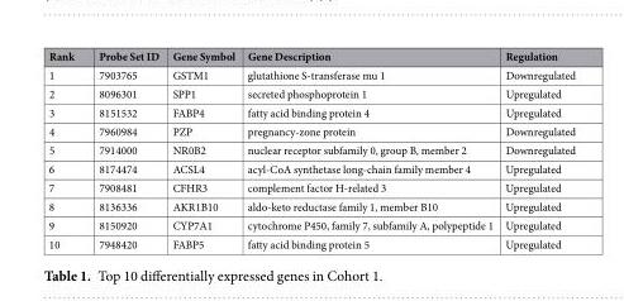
<table><thead><tr><td>Rank</td><td>Probe Set ID</td><td>Gene Symbol</td><td>Gene Description</td><td>Regulation</td></tr></thead><tbody><tr><td>1</td><td>7903765</td><td>GSTM1</td><td>glutathione S-transferase mu 1</td><td>Downregulated</td></tr><tr><td>2</td><td>8096301</td><td>SPP1</td><td>secreted phosphoprotein 1</td><td>Upregulated</td></tr><tr><td>3</td><td>8151532</td><td>FABP4</td><td>fatty acid binding protein 4</td><td>Upregulated</td></tr><tr><td>4</td><td>7960984</td><td>PZP</td><td>pregnancy-zone protein</td><td>Downregulated</td></tr><tr><td>5</td><td>7914000</td><td>NR0B2</td><td>nuclear receptor subfamily 0, group B, member 2</td><td>Downregulated</td></tr><tr><td>6</td><td>8174474</td><td>ACSL4</td><td>acyl-CoA synthetase long-chain family member 4</td><td>Upregulated</td></tr><tr><td>7</td><td>7908481</td><td>CFHR3</td><td>complement factor H-related 3</td><td>Upregulated</td></tr><tr><td>8</td><td>8136336</td><td>AKR1B10</td><td>aldo-keto reductase family 1, member B10</td><td>Upregulated</td></tr><tr><td>9</td><td>8150920</td><td>CYP7A1</td><td>cytochrome P450, family 7, subfamily A, polypeptide 1</td><td>Upregulated</td></tr><tr><td>10</td><td>7948420</td><td>FABP5</td><td>fatty acid binding protein 5</td><td>Upregulated</td></tr></tbody></table>